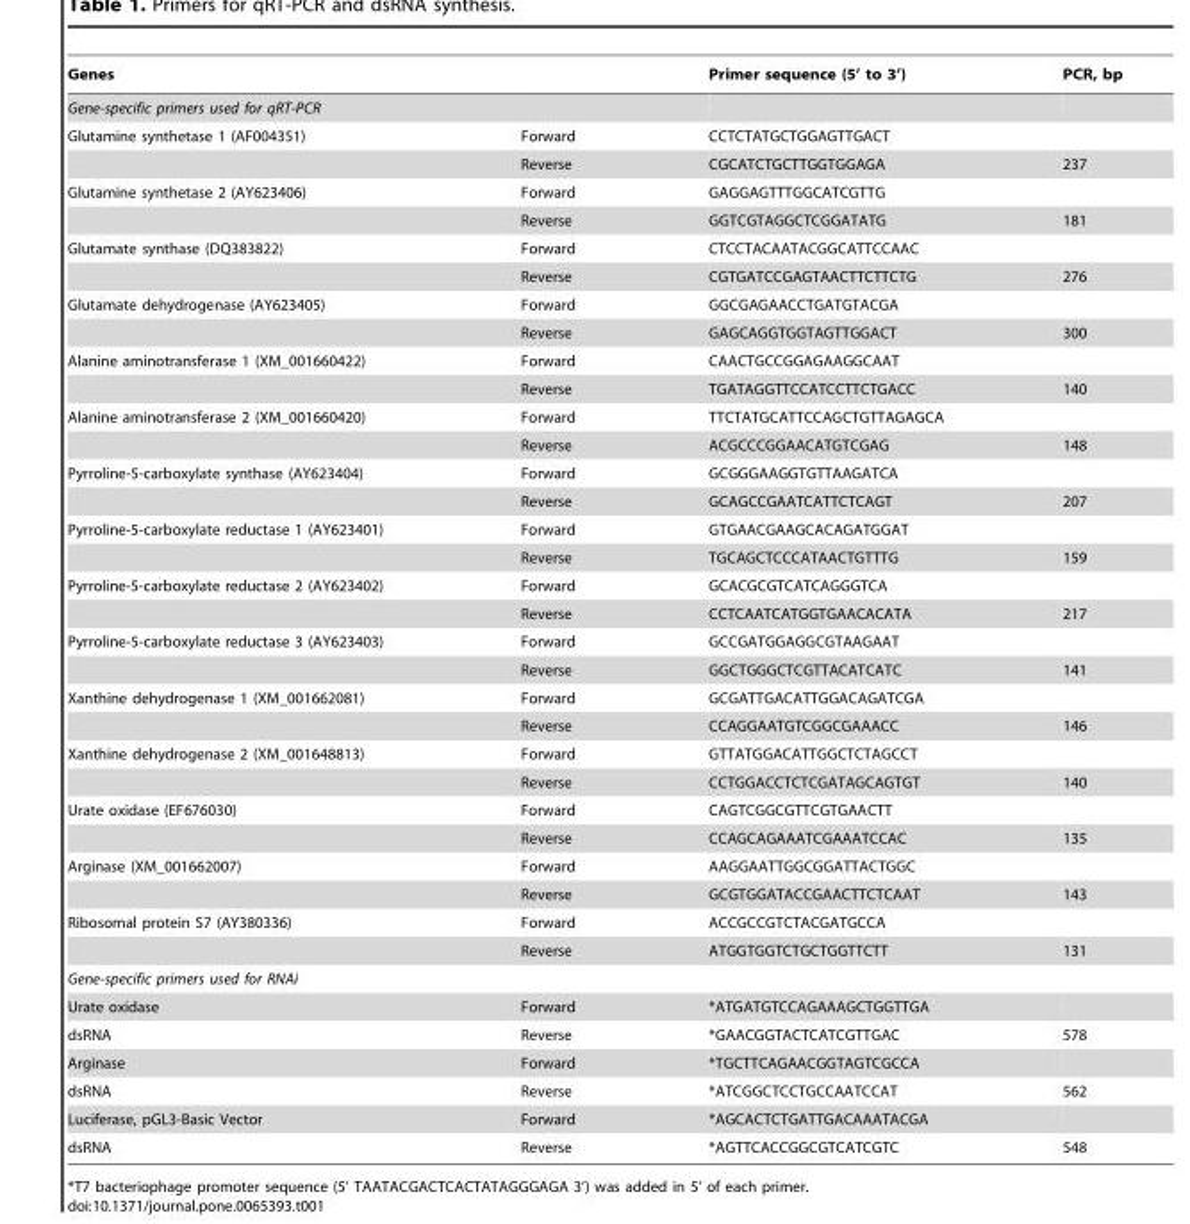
<table><thead><tr><td>Genes</td><td></td><td>Primer sequence (5’ to 3’)</td><td>PCR, bp</td></tr></thead><tbody><tr><td colspan="4">Gene-specific primers used for qRT-PCR</td></tr><tr><td rowspan="2">Glutamine synthetase 1 (AF004351)</td><td>Forward</td><td>CCTCTATGCTGGAGTTGACT</td><td></td></tr><tr><td>Reverse</td><td>CGCATCTGCTTGGTGGAGA</td><td>237</td></tr><tr><td rowspan="2">Glutamine synthetase 2 (AY623406)</td><td>Forward</td><td>GAGGAGTTTGGCATCGTTG</td><td></td></tr><tr><td>Reverse</td><td>GGTCGTAGGCTCGGATATG</td><td>181</td></tr><tr><td rowspan="2">Glutamate synthase (DQ383822)</td><td>Forward</td><td>CTCCTACAATACGGCATTCCAAC</td><td></td></tr><tr><td>Reverse</td><td>CGTGATCCGAGTAACTTCTTCTG</td><td>276</td></tr><tr><td rowspan="2">Glutamate dehydrogenase (AY623405)</td><td>Forward</td><td>GGCGAGAACCTGATGTACGA</td><td></td></tr><tr><td>Reverse</td><td>GAGCAGGTGGTAGTTGGACT</td><td>300</td></tr><tr><td rowspan="2">Alanine aminotransferase 1 (XM_001660422)</td><td>Forward</td><td>CAACTGCCGGAGAAGGCAAT</td><td></td></tr><tr><td>Reverse</td><td>TGATAGGTTCCATCCTTCTGACC</td><td>140</td></tr><tr><td rowspan="2">Alanine aminotransferase 2 (XM_001660420)</td><td>Forward</td><td>TTCTATGCATTCCAGCTGTTAGAGCA</td><td></td></tr><tr><td>Reverse</td><td>ACGCCCGGAACATGTCGAG</td><td>148</td></tr><tr><td rowspan="2">Pyrroline-5-carboxylate synthase (AY623404)</td><td>Forward</td><td>GCGGGAAGGTGTTAAGATCA</td><td></td></tr><tr><td>Reverse</td><td>GCAGCCGAATCATTCTCAGT</td><td>207</td></tr><tr><td rowspan="2">Pyrroline-5-carboxylate reductase 1 (AY623401)</td><td>Forward</td><td>GTGAACGAAGCACAGATGGAT</td><td></td></tr><tr><td>Reverse</td><td>TGCAGCTCCCATAACTGTTTG</td><td>159</td></tr><tr><td rowspan="2">Pyrroline-5-carboxylate reductase 2 (AY623402)</td><td>Forward</td><td>GCACGCGTCATCAGGGTCA</td><td></td></tr><tr><td>Reverse</td><td>CCTCAATCATGGTGAACACATA</td><td>217</td></tr><tr><td rowspan="2">Pyrroline-5-carboxylate reductase 3 (AY623403)</td><td>Forward</td><td>GCCGATGGAGGCGTAAGAAT</td><td></td></tr><tr><td>Reverse</td><td>GGCTGGGCTCGTTACATCATC</td><td>141</td></tr><tr><td rowspan="2">Xanthine dehydrogenase 1 (XM_001662081)</td><td>Forward</td><td>GCGATTGACATTGGACAGATCGA</td><td></td></tr><tr><td>Reverse</td><td>CCAGGAATGTCGGCGAAACC</td><td>146</td></tr><tr><td rowspan="2">Xanthine dehydrogenase 2 (XM_001648813)</td><td>Forward</td><td>GTTATGGACATTGGCTCTAGCCT</td><td></td></tr><tr><td>Reverse</td><td>CCTGGACCTCTCGATAGCAGTGT</td><td>140</td></tr><tr><td rowspan="2">Urate oxidase (EF676030)</td><td>Forward</td><td>CAGTCGGCGTTCGTGAACTT</td><td></td></tr><tr><td>Reverse</td><td>CCAGCAGAAATCGAAATCCAC</td><td>135</td></tr><tr><td rowspan="2">Arginase (XM_001662007)</td><td>Forward</td><td>AAGGAATTGGCGGATTACTGGC</td><td></td></tr><tr><td>Reverse</td><td>GCGTGGATACCGAACTTCTCAAT</td><td>143</td></tr><tr><td rowspan="2">Ribosomal protein S7 (AY380336)</td><td>Forward</td><td>ACCGCCGTCTACGATGCCA</td><td></td></tr><tr><td>Reverse</td><td>ATGGTGGTCTGCTGGTTCTT</td><td>131</td></tr><tr><td colspan="4">Gene-specific primers used for RNAi</td></tr><tr><td>Urate oxidase</td><td>Forward</td><td>*ATGATGTCCAGAAAGCTGGTTGA</td><td></td></tr><tr><td>dsRNA</td><td>Reverse</td><td>*GAACGGTACTCATCGTTGAC</td><td>578</td></tr><tr><td>Arginase</td><td>Forward</td><td>*TGCTTCAGAACGGTAGTCGCCA</td><td></td></tr><tr><td>dsRNA</td><td>Reverse</td><td>*ATCGGCTCCTGCCAATCCAT</td><td>562</td></tr><tr><td>Luciferase, pGL3-Basic Vector</td><td>Forward</td><td>*AGCACTCTGATTGACAAATACGA</td><td></td></tr><tr><td>dsRNA</td><td>Reverse</td><td>*AGTTCACCGGCGTCATCGTC</td><td>548</td></tr></tbody></table>